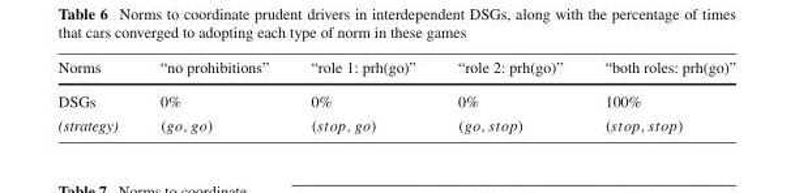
<table><thead><tr><td>Norms</td><td>“no prohibitions”</td><td>“role 1: prh(go)”</td><td>“role 2: prh(go)”</td><td>“both roles: prh(go)”</td></tr></thead><tbody><tr><td>DSGs</td><td>0%</td><td>0%</td><td>0%</td><td>100%</td></tr><tr><td>(strategy)</td><td>(go, go)</td><td>(stop, go)</td><td>(go, stop)</td><td>(stop, stop)</td></tr></tbody></table>